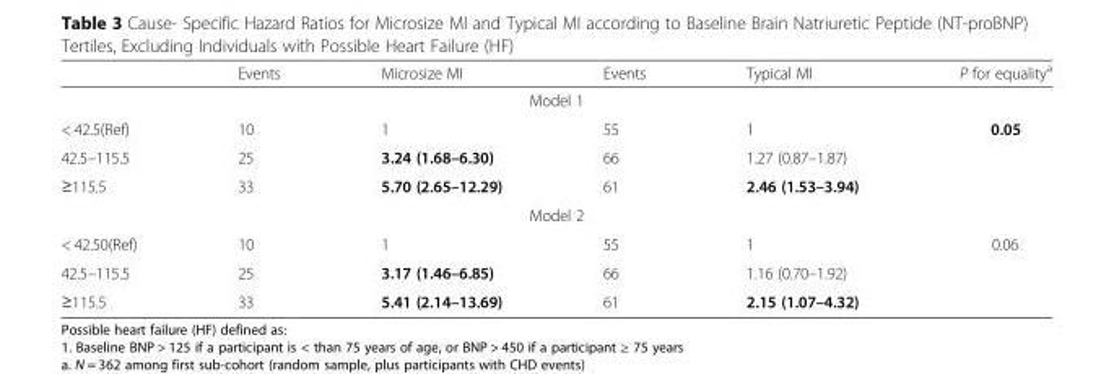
<table><thead><tr><td></td><td>Events</td><td>Microsize MI</td><td>Events</td><td>Typical MI</td><td>P for equality<sup>a</sup></td></tr></thead><tbody><tr><td colspan="6">Model 1</td></tr><tr><td>&lt; 42.5(Ref)</td><td>10</td><td>1</td><td>55</td><td>1</td><td rowspan="3">0.05</td></tr><tr><td>42.5–115.5</td><td>25</td><td>3.24 (1.68–6.30)</td><td>66</td><td>1.27 (0.87–1.87)</td></tr><tr><td>≥115.5</td><td>33</td><td>5.70 (2.65–12.29)</td><td>61</td><td>2.46 (1.53–3.94)</td></tr><tr><td colspan="6">Model 2</td></tr><tr><td>&lt; 42.50(Ref)</td><td>10</td><td>1</td><td>55</td><td>1</td><td rowspan="3">0.06</td></tr><tr><td>42.5–115.5</td><td>25</td><td>3.17 (1.46–6.85)</td><td>66</td><td>1.16 (0.70–1.92)</td></tr><tr><td>≥115.5</td><td>33</td><td>5.41 (2.14–13.69)</td><td>61</td><td>2.15 (1.07–4.32)</td></tr></tbody></table>